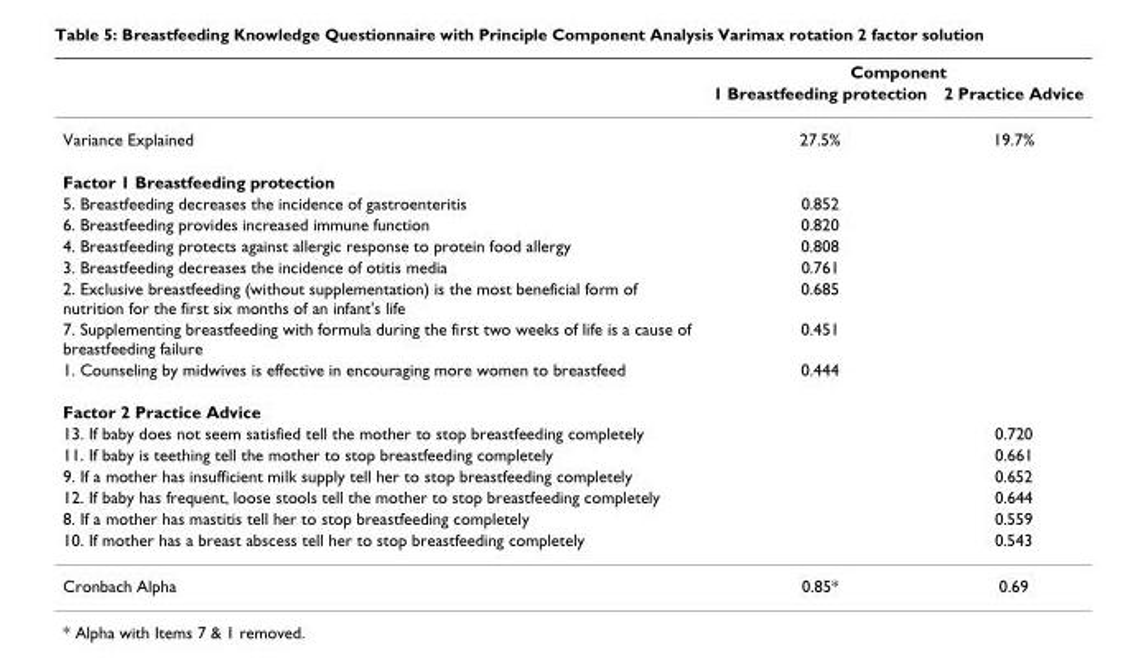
<table><thead><tr><td rowspan="2"></td><td colspan="2">Component</td></tr><tr><td>1 Breastfeeding protection</td><td>2 Practice Advice</td></tr></thead><tbody><tr><td>Variance Explained</td><td>27.5%</td><td>19.7%</td></tr><tr><td colspan="3">Factor 1 Breastfeeding protection</td></tr><tr><td>5. Breastfeeding decreases the incidence of gastroenteritis</td><td>0.852</td><td></td></tr><tr><td>6. Breastfeeding provides increased immune function</td><td>0.820</td><td></td></tr><tr><td>4. Breastfeeding protects against allergic response to protein food allergy</td><td>0.808</td><td></td></tr><tr><td>3. Breastfeeding decreases the incidence of otitis media</td><td>0.761</td><td></td></tr><tr><td>2. Exclusive breastfeeding (without supplementation) is the most beneficial form of nutrition for the first six months of an infant&#x27;s life</td><td>0.685</td><td></td></tr><tr><td>7. Supplementing breastfeeding with formula during the first two weeks of life is a cause of breastfeeding failure</td><td>0.451</td><td></td></tr><tr><td>1. Counseling by midwives is effective in encouraging more women to breastfeed</td><td>0.444</td><td></td></tr><tr><td colspan="3">Factor 2 Practice Advice</td></tr><tr><td>13. If baby does not seem satisfied tell the mother to stop breastfeeding completely</td><td></td><td>0.720</td></tr><tr><td>11. If baby is teething tell the mother to stop breastfeeding completely</td><td></td><td>0.661</td></tr><tr><td>9. If a mother has insufficient milk supply tell her to stop breastfeeding completely</td><td></td><td>0.652</td></tr><tr><td>12. If baby has frequent, loose stools tell the mother to stop breastfeeding completely</td><td></td><td>0.644</td></tr><tr><td>8. If a mother has mastitis tell her to stop breastfeeding completely</td><td></td><td>0.559</td></tr><tr><td>10. If mother has a breast abscess tell her to stop breastfeeding completely</td><td></td><td>0.543</td></tr><tr><td>Cronbach Alpha</td><td>0.85*</td><td>0.69</td></tr></tbody></table>